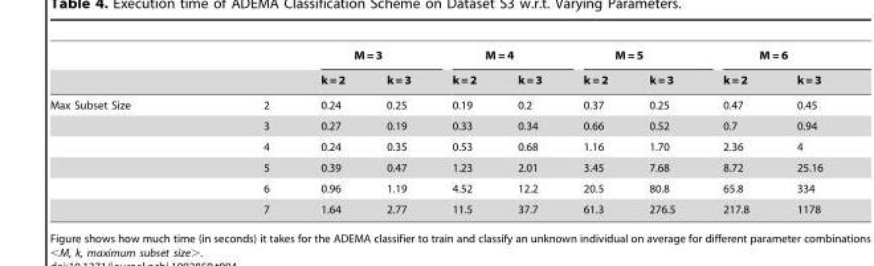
<table><thead><tr><td rowspan="2"></td><td rowspan="2"></td><td colspan="2">M = 3</td><td colspan="2">M = 4</td><td colspan="2">M = 5</td><td colspan="2">M = 6</td></tr><tr><td>k = 2</td><td>k = 3</td><td>k = 2</td><td>k = 3</td><td>k = 2</td><td>k = 3</td><td>k = 2</td><td>k = 3</td></tr></thead><tbody><tr><td rowspan="6">Max Subset Size</td><td>2</td><td>0.24</td><td>0.25</td><td>0.19</td><td>0.2</td><td>0.37</td><td>0.25</td><td>0.47</td><td>0.45</td></tr><tr><td>3</td><td>0.27</td><td>0.19</td><td>0.33</td><td>0.34</td><td>0.66</td><td>0.52</td><td>0.7</td><td>0.94</td></tr><tr><td>4</td><td>0.24</td><td>0.35</td><td>0.53</td><td>0.68</td><td>1.16</td><td>1.70</td><td>2.36</td><td>4</td></tr><tr><td>5</td><td>0.39</td><td>0.47</td><td>1.23</td><td>2.01</td><td>3.45</td><td>7.68</td><td>8.72</td><td>25.16</td></tr><tr><td>6</td><td>0.96</td><td>1.19</td><td>4.52</td><td>12.2</td><td>20.5</td><td>80.8</td><td>65.8</td><td>334</td></tr><tr><td>7</td><td>1.64</td><td>2.77</td><td>11.5</td><td>37.7</td><td>61.3</td><td>276.5</td><td>217.8</td><td>1178</td></tr></tbody></table>